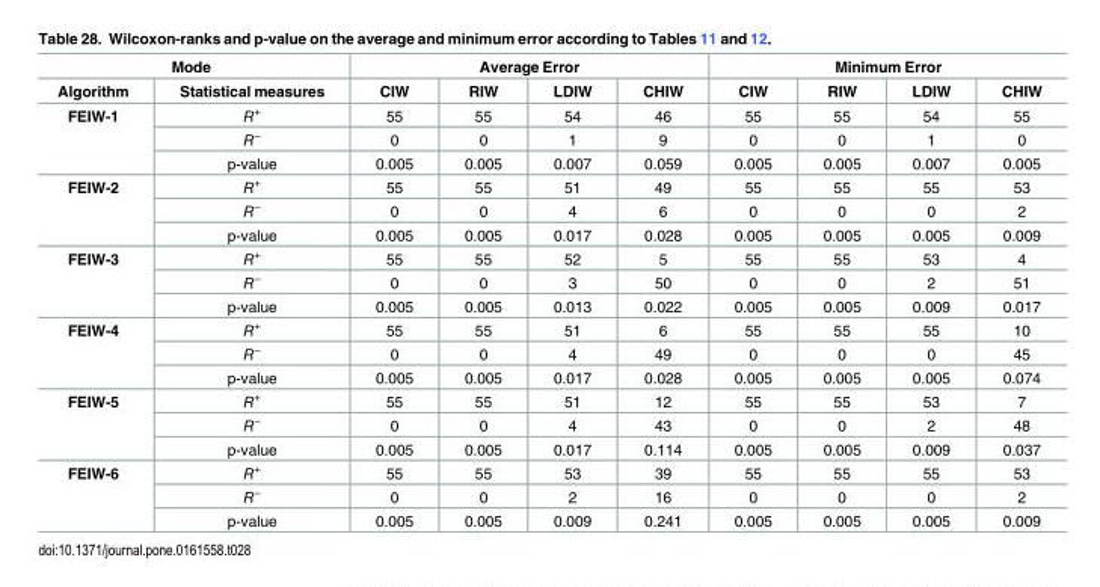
<table><thead><tr><td colspan="2">Mode</td><td colspan="4">Average Error</td><td colspan="4">Minimum Error</td></tr><tr><td>Algorithm</td><td>Statistical measures</td><td>CIW</td><td>RIW</td><td>LDIW</td><td>CHIW</td><td>CIW</td><td>RIW</td><td>LDIW</td><td>CHIW</td></tr></thead><tbody><tr><td rowspan="3">FEIW-1</td><td>R<sup>+</sup></td><td>55</td><td>55</td><td>54</td><td>46</td><td>55</td><td>55</td><td>54</td><td>55</td></tr><tr><td>R<sup>−</sup></td><td>0</td><td>0</td><td>1</td><td>9</td><td>0</td><td>0</td><td>1</td><td>0</td></tr><tr><td>p-value</td><td>0.005</td><td>0.005</td><td>0.007</td><td>0.059</td><td>0.005</td><td>0.005</td><td>0.007</td><td>0.005</td></tr><tr><td rowspan="3">FEIW-2</td><td>R<sup>+</sup></td><td>55</td><td>55</td><td>51</td><td>49</td><td>55</td><td>55</td><td>55</td><td>53</td></tr><tr><td>R<sup>−</sup></td><td>0</td><td>0</td><td>4</td><td>6</td><td>0</td><td>0</td><td>0</td><td>2</td></tr><tr><td>p-value</td><td>0.005</td><td>0.005</td><td>0.017</td><td>0.028</td><td>0.005</td><td>0.005</td><td>0.005</td><td>0.009</td></tr><tr><td rowspan="3">FEIW-3</td><td>R<sup>+</sup></td><td>55</td><td>55</td><td>52</td><td>5</td><td>55</td><td>55</td><td>53</td><td>4</td></tr><tr><td>R<sup>−</sup></td><td>0</td><td>0</td><td>3</td><td>50</td><td>0</td><td>0</td><td>2</td><td>51</td></tr><tr><td>p-value</td><td>0.005</td><td>0.005</td><td>0.013</td><td>0.022</td><td>0.005</td><td>0.005</td><td>0.009</td><td>0.017</td></tr><tr><td rowspan="3">FEIW-4</td><td>R<sup>+</sup></td><td>55</td><td>55</td><td>51</td><td>6</td><td>55</td><td>55</td><td>55</td><td>10</td></tr><tr><td>R<sup>−</sup></td><td>0</td><td>0</td><td>4</td><td>49</td><td>0</td><td>0</td><td>0</td><td>45</td></tr><tr><td>p-value</td><td>0.005</td><td>0.005</td><td>0.017</td><td>0.028</td><td>0.005</td><td>0.005</td><td>0.005</td><td>0.074</td></tr><tr><td rowspan="3">FEIW-5</td><td>R<sup>+</sup></td><td>55</td><td>55</td><td>51</td><td>12</td><td>55</td><td>55</td><td>53</td><td>7</td></tr><tr><td>R<sup>−</sup></td><td>0</td><td>0</td><td>4</td><td>43</td><td>0</td><td>0</td><td>2</td><td>48</td></tr><tr><td>p-value</td><td>0.005</td><td>0.005</td><td>0.017</td><td>0.114</td><td>0.005</td><td>0.005</td><td>0.009</td><td>0.037</td></tr><tr><td rowspan="3">FEIW-6</td><td>R<sup>+</sup></td><td>55</td><td>55</td><td>53</td><td>39</td><td>55</td><td>55</td><td>55</td><td>53</td></tr><tr><td>R<sup>−</sup></td><td>0</td><td>0</td><td>2</td><td>16</td><td>0</td><td>0</td><td>0</td><td>2</td></tr><tr><td>p-value</td><td>0.005</td><td>0.005</td><td>0.009</td><td>0.241</td><td>0.005</td><td>0.005</td><td>0.005</td><td>0.009</td></tr></tbody></table>